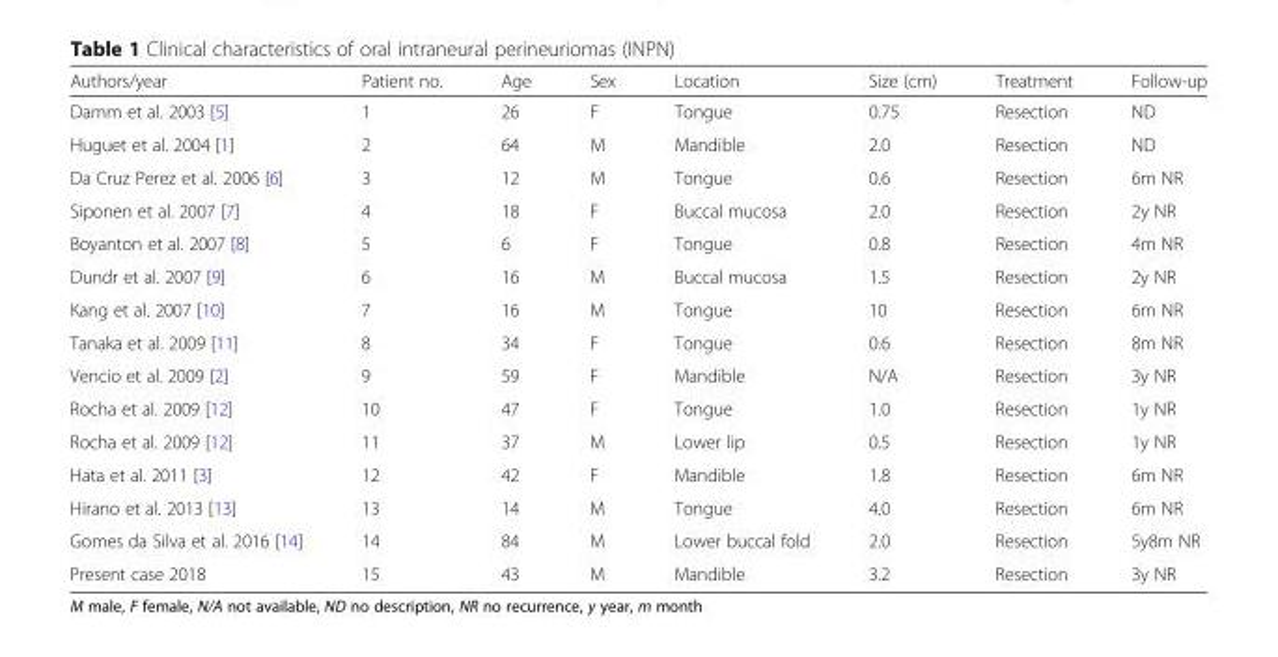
<table><thead><tr><td>Authors/year</td><td>Patient no.</td><td>Age</td><td>Sex</td><td>Location</td><td>Size (cm)</td><td>Treatment</td><td>Follow-up</td></tr></thead><tbody><tr><td>Damm et al. 2003 [5]</td><td>1</td><td>26</td><td>F</td><td>Tongue</td><td>0.75</td><td>Resection</td><td>ND</td></tr><tr><td>Huguet et al. 2004 [1]</td><td>2</td><td>64</td><td>M</td><td>Mandible</td><td>2.0</td><td>Resection</td><td>ND</td></tr><tr><td>Da Cruz Perez et al. 2006 [6]</td><td>3</td><td>12</td><td>M</td><td>Tongue</td><td>0.6</td><td>Resection</td><td>6m NR</td></tr><tr><td>Siponen et al. 2007 [7]</td><td>4</td><td>18</td><td>F</td><td>Buccal mucosa</td><td>2.0</td><td>Resection</td><td>2y NR</td></tr><tr><td>Boyanton et al. 2007 [8]</td><td>5</td><td>6</td><td>F</td><td>Tongue</td><td>0.8</td><td>Resection</td><td>4m NR</td></tr><tr><td>Dundr et al. 2007 [9]</td><td>6</td><td>16</td><td>M</td><td>Buccal mucosa</td><td>1.5</td><td>Resection</td><td>2y NR</td></tr><tr><td>Kang et al. 2007 [10]</td><td>7</td><td>16</td><td>M</td><td>Tongue</td><td>10</td><td>Resection</td><td>6m NR</td></tr><tr><td>Tanaka et al. 2009 [11]</td><td>8</td><td>34</td><td>F</td><td>Tongue</td><td>0.6</td><td>Resection</td><td>8m NR</td></tr><tr><td>Vencio et al. 2009 [2]</td><td>9</td><td>59</td><td>F</td><td>Mandible</td><td>N/A</td><td>Resection</td><td>3y NR</td></tr><tr><td>Rocha et al. 2009 [12]</td><td>10</td><td>47</td><td>F</td><td>Tongue</td><td>1.0</td><td>Resection</td><td>1y NR</td></tr><tr><td>Rocha et al. 2009 [12]</td><td>11</td><td>37</td><td>M</td><td>Lower lip</td><td>0.5</td><td>Resection</td><td>1y NR</td></tr><tr><td>Hata et al. 2011 [3]</td><td>12</td><td>42</td><td>F</td><td>Mandible</td><td>1.8</td><td>Resection</td><td>6m NR</td></tr><tr><td>Hirano et al. 2013 [13]</td><td>13</td><td>14</td><td>M</td><td>Tongue</td><td>4.0</td><td>Resection</td><td>6m NR</td></tr><tr><td>Gomes da Silva et al. 2016 [14]</td><td>14</td><td>84</td><td>M</td><td>Lower buccal fold</td><td>2.0</td><td>Resection</td><td>5y8m NR</td></tr><tr><td>Present case 2018</td><td>15</td><td>43</td><td>M</td><td>Mandible</td><td>3.2</td><td>Resection</td><td>3y NR</td></tr></tbody></table>